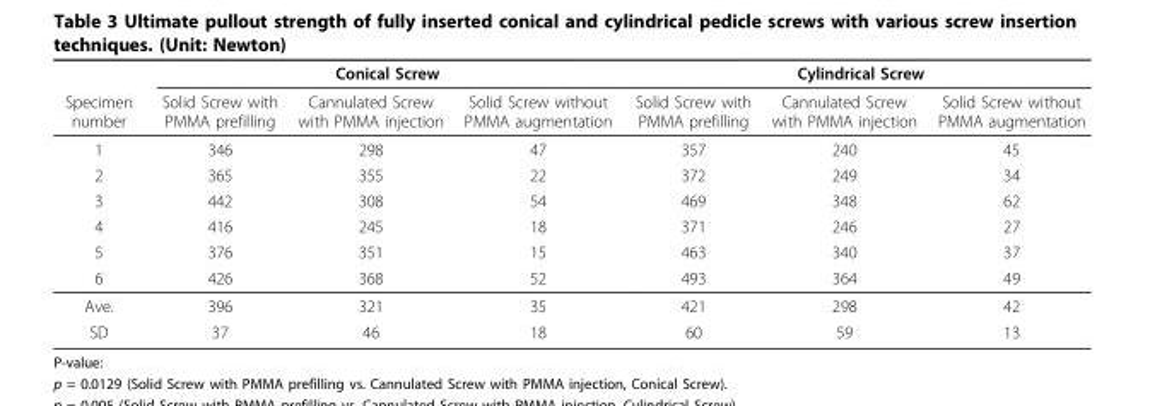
<table><thead><tr><td rowspan="2">Specimen number</td><td colspan="3">Conical Screw</td><td colspan="3">Cylindrical Screw</td></tr><tr><td>Solid Screw with PMMA prefilling</td><td>Cannulated Screw with PMMA injection</td><td>Solid Screw without PMMA augmentation</td><td>Solid Screw with PMMA prefilling</td><td>Cannulated Screw with PMMA injection</td><td>Solid Screw without PMMA augmentation</td></tr></thead><tbody><tr><td>1</td><td>346</td><td>298</td><td>47</td><td>357</td><td>240</td><td>45</td></tr><tr><td>2</td><td>365</td><td>355</td><td>22</td><td>372</td><td>249</td><td>34</td></tr><tr><td>3</td><td>442</td><td>308</td><td>54</td><td>469</td><td>348</td><td>62</td></tr><tr><td>4</td><td>416</td><td>245</td><td>18</td><td>371</td><td>246</td><td>27</td></tr><tr><td>5</td><td>376</td><td>351</td><td>15</td><td>463</td><td>340</td><td>37</td></tr><tr><td>6</td><td>426</td><td>368</td><td>52</td><td>493</td><td>364</td><td>49</td></tr><tr><td>Ave.</td><td>396</td><td>321</td><td>35</td><td>421</td><td>298</td><td>42</td></tr><tr><td>SD</td><td>37</td><td>46</td><td>18</td><td>60</td><td>59</td><td>13</td></tr></tbody></table>